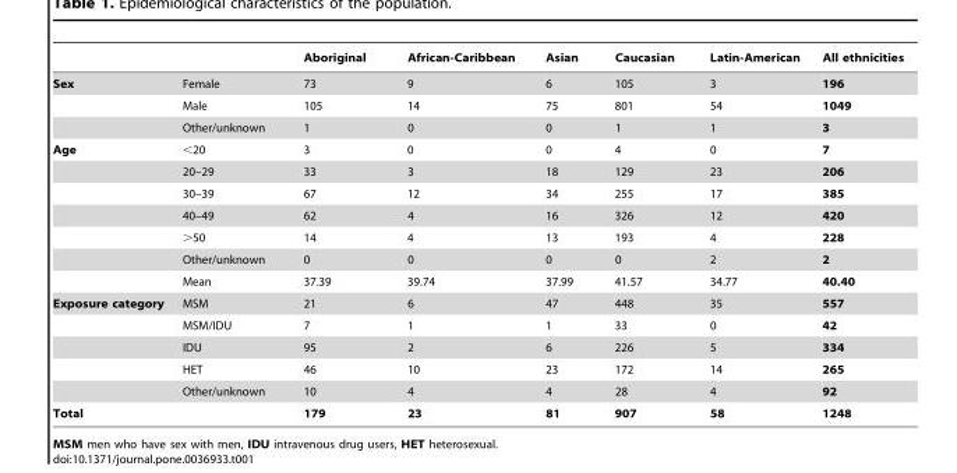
<table><thead><tr><td></td><td></td><td>Aboriginal</td><td>African-Caribbean</td><td>Asian</td><td>Caucasian</td><td>Latin-American</td><td>All ethnicities</td></tr></thead><tbody><tr><td rowspan="3">Sex</td><td>Female</td><td>73</td><td>9</td><td>6</td><td>105</td><td>3</td><td>196</td></tr><tr><td>Male</td><td>105</td><td>14</td><td>75</td><td>801</td><td>54</td><td>1049</td></tr><tr><td>Other/unknown</td><td>1</td><td>0</td><td>0</td><td>1</td><td>1</td><td>3</td></tr><tr><td rowspan="7">Age</td><td>&lt;20</td><td>3</td><td>0</td><td>0</td><td>4</td><td>0</td><td>7</td></tr><tr><td>20–29</td><td>33</td><td>3</td><td>18</td><td>129</td><td>23</td><td>206</td></tr><tr><td>30–39</td><td>67</td><td>12</td><td>34</td><td>255</td><td>17</td><td>385</td></tr><tr><td>40–49</td><td>62</td><td>4</td><td>16</td><td>326</td><td>12</td><td>420</td></tr><tr><td>&gt;50</td><td>14</td><td>4</td><td>13</td><td>193</td><td>4</td><td>228</td></tr><tr><td>Other/unknown</td><td>0</td><td>0</td><td>0</td><td>0</td><td>2</td><td>2</td></tr><tr><td>Mean</td><td>37.39</td><td>39.74</td><td>37.99</td><td>41.57</td><td>34.77</td><td>40.40</td></tr><tr><td rowspan="5">Exposure category</td><td>MSM</td><td>21</td><td>6</td><td>47</td><td>448</td><td>35</td><td>557</td></tr><tr><td>MSM/IDU</td><td>7</td><td>1</td><td>1</td><td>33</td><td>0</td><td>42</td></tr><tr><td>IDU</td><td>95</td><td>2</td><td>6</td><td>226</td><td>5</td><td>334</td></tr><tr><td>HET</td><td>46</td><td>10</td><td>23</td><td>172</td><td>14</td><td>265</td></tr><tr><td>Other/unknown</td><td>10</td><td>4</td><td>4</td><td>28</td><td>4</td><td>92</td></tr><tr><td>Total</td><td></td><td>179</td><td>23</td><td>81</td><td>907</td><td>58</td><td>1248</td></tr></tbody></table>